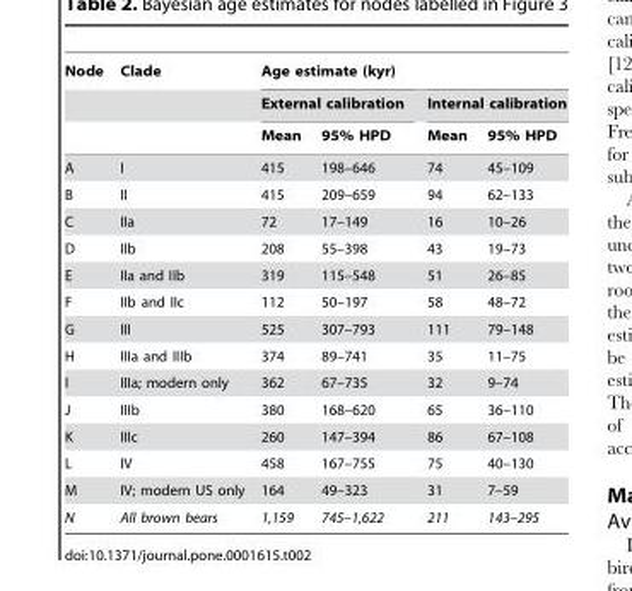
<table><thead><tr><td rowspan="3">Node</td><td rowspan="3">Clade</td><td colspan="4">Age estimate (kyr)</td></tr><tr><td colspan="2">External calibration</td><td colspan="2">Internal calibration</td></tr><tr><td>Mean</td><td>95% HPD</td><td>Mean</td><td>95% HPD</td></tr></thead><tbody><tr><td>A</td><td>I</td><td>415</td><td>198–646</td><td>74</td><td>45–109</td></tr><tr><td>B</td><td>II</td><td>415</td><td>209–659</td><td>94</td><td>62–133</td></tr><tr><td>C</td><td>IIa</td><td>72</td><td>17–149</td><td>16</td><td>10–26</td></tr><tr><td>D</td><td>IIb</td><td>208</td><td>55–398</td><td>43</td><td>19–73</td></tr><tr><td>E</td><td>IIa and IIb</td><td>319</td><td>115–548</td><td>51</td><td>26–85</td></tr><tr><td>F</td><td>IIb and IIc</td><td>112</td><td>50–197</td><td>58</td><td>48–72</td></tr><tr><td>G</td><td>III</td><td>525</td><td>307–793</td><td>111</td><td>79–148</td></tr><tr><td>H</td><td>IIIa and IIIb</td><td>374</td><td>89–741</td><td>35</td><td>11–75</td></tr><tr><td>I</td><td>IIIa; modern only</td><td>362</td><td>67–735</td><td>32</td><td>9–74</td></tr><tr><td>J</td><td>IIIb</td><td>380</td><td>168–620</td><td>65</td><td>36–110</td></tr><tr><td>K</td><td>IIIc</td><td>260</td><td>147–394</td><td>86</td><td>67–108</td></tr><tr><td>L</td><td>IV</td><td>458</td><td>167–755</td><td>75</td><td>40–130</td></tr><tr><td>M</td><td>IV; modern US only</td><td>164</td><td>49–323</td><td>31</td><td>7–59</td></tr><tr><td>N</td><td>All brown bears</td><td>1,159</td><td>745–1,622</td><td>211</td><td>143–295</td></tr></tbody></table>